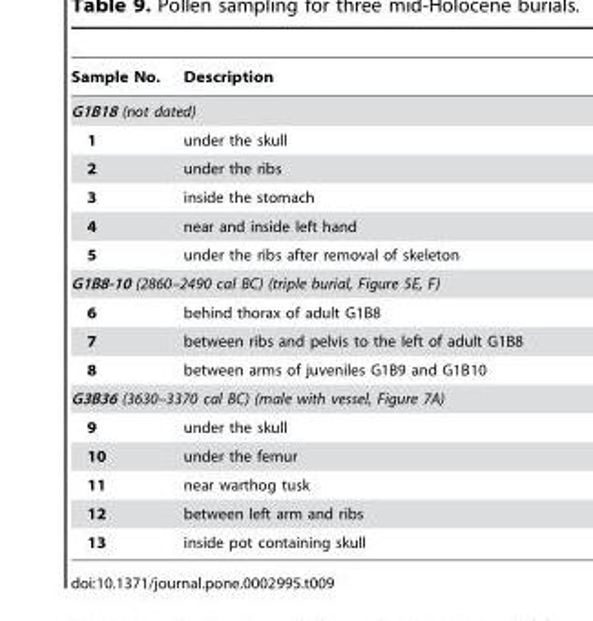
<table><thead><tr><td>Sample No.</td><td>Description</td></tr></thead><tbody><tr><td colspan="2">G1B18 (not dated)</td></tr><tr><td>1</td><td>under the skull</td></tr><tr><td>2</td><td>under the ribs</td></tr><tr><td>3</td><td>inside the stomach</td></tr><tr><td>4</td><td>near and inside left hand</td></tr><tr><td>5</td><td>under the ribs after removal of skeleton</td></tr><tr><td colspan="2">G1B8-10 (2860–2490 cal BC) (triple burial, Figure 5E, F)</td></tr><tr><td>6</td><td>behind thorax of adult G1B8</td></tr><tr><td>7</td><td>between ribs and pelvis to the left of adult G1B8</td></tr><tr><td>8</td><td>between arms of juveniles G1B9 and G1B10</td></tr><tr><td colspan="2">G3B36 (3630–3370 cal BC) (male with vessel, Figure 7A)</td></tr><tr><td>9</td><td>under the skull</td></tr><tr><td>10</td><td>under the femur</td></tr><tr><td>11</td><td>near warthog tusk</td></tr><tr><td>12</td><td>between left arm and ribs</td></tr><tr><td>13</td><td>inside pot containing skull</td></tr></tbody></table>